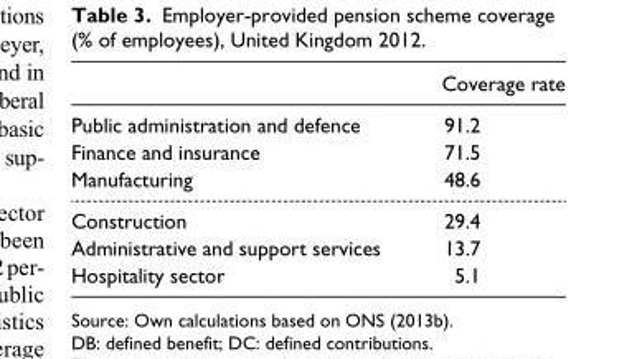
<table><thead><tr><td></td><td>Coverage rate</td></tr></thead><tbody><tr><td>Public administration and defence</td><td>91.2</td></tr><tr><td>Finance and insurance</td><td>71.5</td></tr><tr><td>Manufacturing</td><td>48.6</td></tr><tr><td>Construction</td><td>29.4</td></tr><tr><td>Administrative and support services</td><td>13.7</td></tr><tr><td>Hospitality sector</td><td>5.1</td></tr></tbody></table>